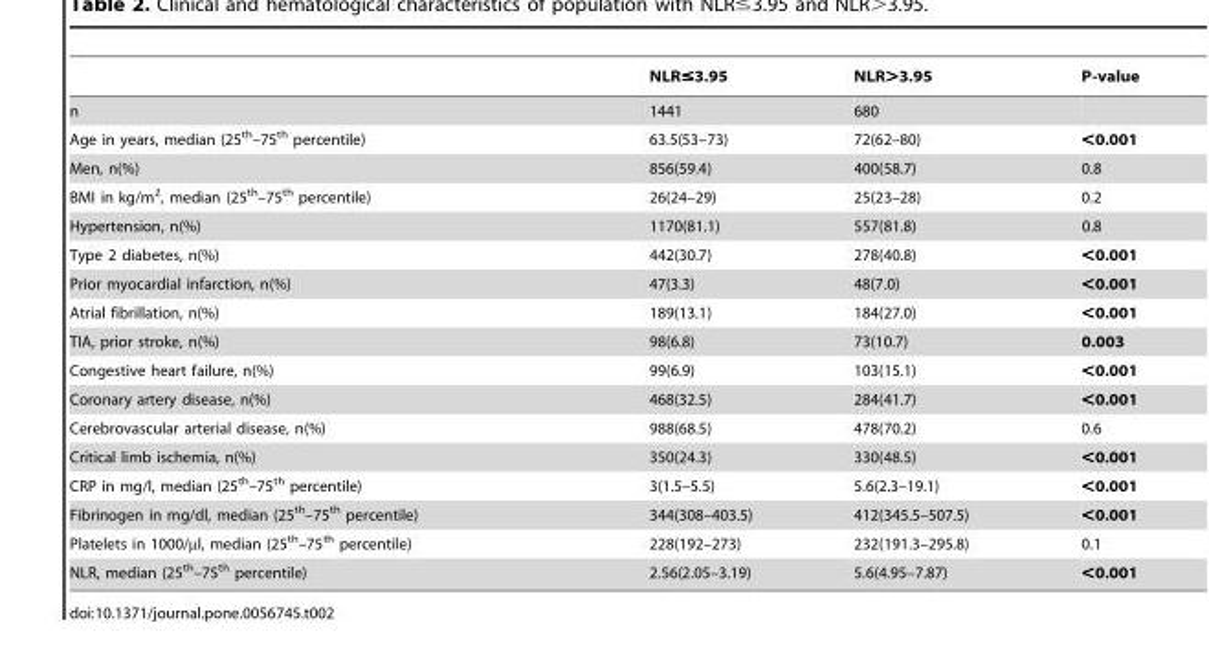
<table><thead><tr><td></td><td>NLR≤3.95</td><td>NLR&gt;3.95</td><td>P-value</td></tr></thead><tbody><tr><td>n</td><td>1441</td><td>680</td><td></td></tr><tr><td>Age in years, median (25<sup>th</sup>–75<sup>th</sup> percentile)</td><td>63.5(53–73)</td><td>72(62–80)</td><td>&lt;0.001</td></tr><tr><td>Men, n(%)</td><td>856(59.4)</td><td>400(58.7)</td><td>0.8</td></tr><tr><td>BMI in kg/m<sup>2</sup>, median (25<sup>th</sup>–75<sup>th</sup> percentile)</td><td>26(24–29)</td><td>25(23–28)</td><td>0.2</td></tr><tr><td>Hypertension, n(%)</td><td>1170(81.1)</td><td>557(81.8)</td><td>0.8</td></tr><tr><td>Type 2 diabetes, n(%)</td><td>442(30.7)</td><td>278(40.8)</td><td>&lt;0.001</td></tr><tr><td>Prior myocardial infarction, n(%)</td><td>47(3.3)</td><td>48(7.0)</td><td>&lt;0.001</td></tr><tr><td>Atrial fibrillation, n(%)</td><td>189(13.1)</td><td>184(27.0)</td><td>&lt;0.001</td></tr><tr><td>TIA, prior stroke, n(%)</td><td>98(6.8)</td><td>73(10.7)</td><td>0.003</td></tr><tr><td>Congestive heart failure, n(%)</td><td>99(6.9)</td><td>103(15.1)</td><td>&lt;0.001</td></tr><tr><td>Coronary artery disease, n(%)</td><td>468(32.5)</td><td>284(41.7)</td><td>&lt;0.001</td></tr><tr><td>Cerebrovascular arterial disease, n(%)</td><td>988(68.5)</td><td>478(70.2)</td><td>0.6</td></tr><tr><td>Critical limb ischemia, n(%)</td><td>350(24.3)</td><td>330(48.5)</td><td>&lt;0.001</td></tr><tr><td>CRP in mg/l, median (25<sup>th</sup>–75<sup>th</sup> percentile)</td><td>3(1.5–5.5)</td><td>5.6(2.3–19.1)</td><td>&lt;0.001</td></tr><tr><td>Fibrinogen in mg/dl, median (25<sup>th</sup>–75<sup>th</sup> percentile)</td><td>344(308–403.5)</td><td>412(345.5–507.5)</td><td>&lt;0.001</td></tr><tr><td>Platelets in 1000/µl, median (25<sup>th</sup>–75<sup>th</sup> percentile)</td><td>228(192–273)</td><td>232(191.3–295.8)</td><td>0.1</td></tr><tr><td>NLR, median (25<sup>th</sup>–75<sup>th</sup> percentile)</td><td>2.56(2.05–3.19)</td><td>5.6(4.95–7.87)</td><td>&lt;0.001</td></tr></tbody></table>